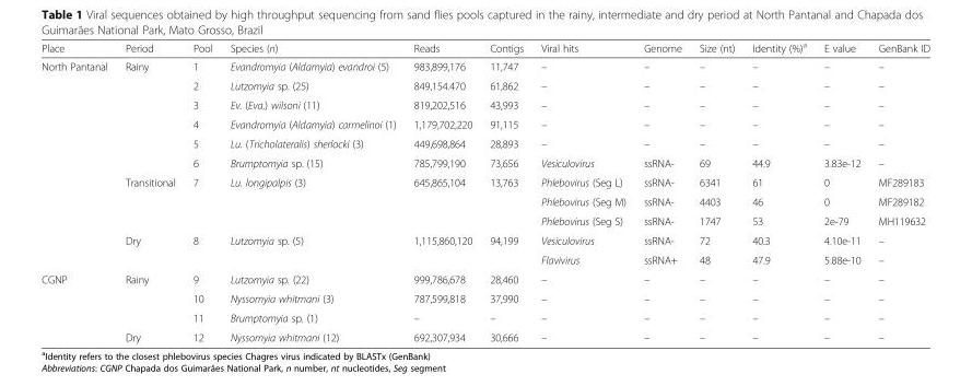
<table><thead><tr><td>Place</td><td>Period</td><td>Pool</td><td>Species (n)</td><td>Reads</td><td>Contigs</td><td>Viral hits</td><td>Genome</td><td>Size (nt)</td><td>Identity (%)<sup>a</sup></td><td>E value</td><td>GenBank ID</td></tr></thead><tbody><tr><td rowspan="11">North Pantanal</td><td rowspan="6">Rainy</td><td>1</td><td>Evandromyia (Aldamyia) evandroi (5)</td><td>983,899,176</td><td>11,747</td><td>–</td><td>–</td><td>–</td><td>–</td><td>–</td><td>–</td></tr><tr><td>2</td><td>Lutzomyia sp. (25)</td><td>849,154.470</td><td>61,862</td><td>–</td><td>–</td><td>–</td><td>–</td><td>–</td><td>–</td></tr><tr><td>3</td><td>Ev. (Eva.) wilsoni (11)</td><td>819,202,516</td><td>43,993</td><td>–</td><td>–</td><td>–</td><td>–</td><td>–</td><td>–</td></tr><tr><td>4</td><td>Evandromyia (Aldamyia) carmelinoi (1)</td><td>1,179,702,220</td><td>91,115</td><td>–</td><td>–</td><td>–</td><td>–</td><td>–</td><td>–</td></tr><tr><td>5</td><td>Lu. (Tricholateralis) sherlocki (3)</td><td>449,698,864</td><td>28,893</td><td>–</td><td>–</td><td>–</td><td>–</td><td>–</td><td>–</td></tr><tr><td>6</td><td>Brumptomyia sp. (15)</td><td>785,799,190</td><td>73,656</td><td>Vesiculovirus</td><td>ssRNA-</td><td>69</td><td>44.9</td><td>3.83e-12</td><td>–</td></tr><tr><td rowspan="3">Transitional</td><td rowspan="3">7</td><td rowspan="3">Lu. longipalpis (3)</td><td rowspan="3">645,865,104</td><td rowspan="3">13,763</td><td>Phlebovirus (Seg L)</td><td>ssRNA-</td><td>6341</td><td>61</td><td>0</td><td>MF289183</td></tr><tr><td>Phlebovirus (Seg M)</td><td>ssRNA-</td><td>4403</td><td>46</td><td>0</td><td>MF289182</td></tr><tr><td>Phlebovirus (Seg S)</td><td>ssRNA-</td><td>1747</td><td>53</td><td>2e-79</td><td>MH119632</td></tr><tr><td rowspan="2">Dry</td><td rowspan="2">8</td><td rowspan="2">Lutzomyia sp. (5)</td><td rowspan="2">1,115,860,120</td><td rowspan="2">94,199</td><td>Vesiculovirus</td><td>ssRNA-</td><td>72</td><td>40.3</td><td>4.10e-11</td><td>–</td></tr><tr><td>Flavivirus</td><td>ssRNA+</td><td>48</td><td>47.9</td><td>5.88e-10</td><td>–</td></tr><tr><td rowspan="4">CGNP</td><td rowspan="3">Rainy</td><td>9</td><td>Lutzomyia sp. (22)</td><td>999,786,678</td><td>28,460</td><td>–</td><td>–</td><td>–</td><td>–</td><td>–</td><td>–</td></tr><tr><td>10</td><td>Nyssomyia whitmani (3)</td><td>787,599,818</td><td>37,990</td><td>–</td><td>–</td><td>–</td><td>–</td><td>–</td><td>–</td></tr><tr><td>11</td><td>Brumptomyia sp. (1)</td><td>–</td><td>–</td><td>–</td><td>–</td><td>–</td><td>–</td><td>–</td><td>–</td></tr><tr><td>Dry</td><td>12</td><td>Nyssomyia whitmani (12)</td><td>692,307,934</td><td>30,666</td><td>–</td><td>–</td><td>–</td><td>–</td><td>–</td><td>–</td></tr></tbody></table>